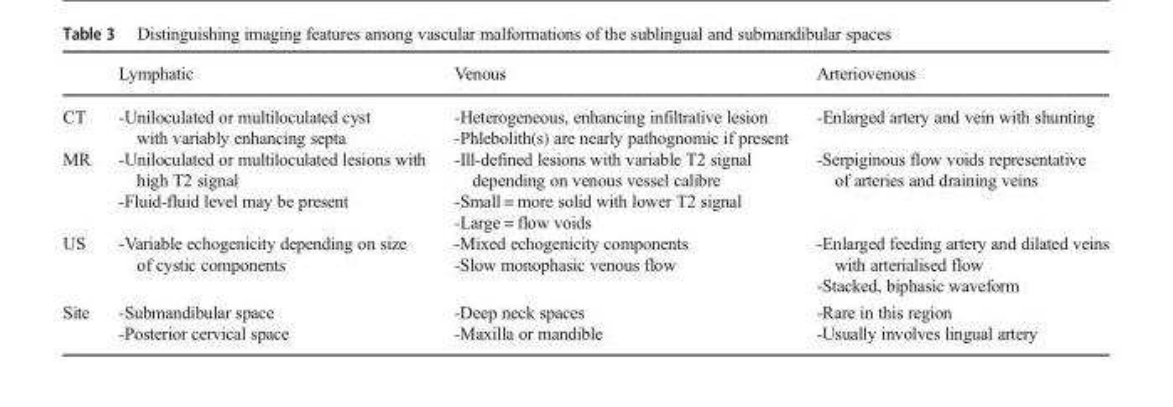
<table><thead><tr><td></td><td>Lymphatic</td><td>Venous</td><td>Arteriovenous</td></tr></thead><tbody><tr><td>CT</td><td>-Uniloculated or multiloculated cyst with variably enhancing septa</td><td>-Heterogeneous, enhancing infiltrative lesion -Phlebolith(s) are nearly pathognomic if present</td><td>-Enlarged artery and vein with shunting</td></tr><tr><td>MR</td><td>-Uniloculated or multiloculated lesions with high T2 signal -Fluid-fluid level may be present</td><td>-Ill-defined lesions with variable T2 signal depending on venous vessel calibre -Small = more solid with lower T2 signal -Large = flow voids</td><td>-Serpiginous flow voids representative of arteries and draining veins</td></tr><tr><td>US</td><td>-Variable echogenicity depending on size of cystic components</td><td>-Mixed echogenicity components -Slow monophasic venous flow</td><td>-Enlarged feeding artery and dilated veins with arterialised flow -Stacked, biphasic waveform</td></tr><tr><td>Site</td><td>-Submandibular space -Posterior cervical space</td><td>-Deep neck spaces -Maxilla or mandible</td><td>-Rare in this region -Usually involves lingual artery</td></tr></tbody></table>